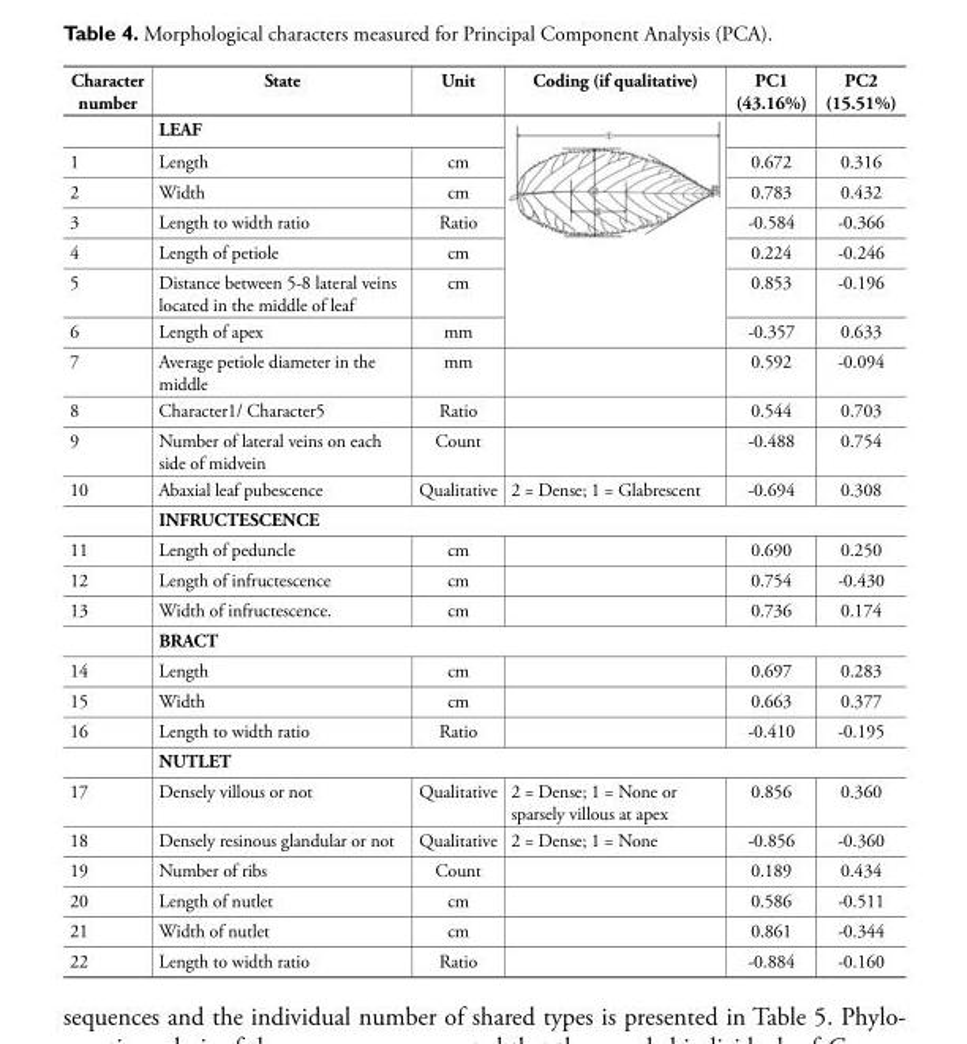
<table><tbody><tr><td rowspan="2">Character number</td><td>State</td><td>Unit</td><td>Coding (if qualitative)</td><td>PC1 (43.16%)</td><td>PC2 (15.51%)</td></tr><tr><td colspan="2">LEAF</td><td rowspan="7"></td><td></td><td></td></tr><tr><td>1</td><td>Length</td><td>cm</td><td>0.672</td><td>0.316</td></tr><tr><td>2</td><td>Width</td><td>cm</td><td>0.783</td><td>0.432</td></tr><tr><td>3</td><td>Length to width ratio</td><td>Ratio</td><td>-0.584</td><td>-0.366</td></tr><tr><td>4</td><td>Length of petiole</td><td>cm</td><td>0.224</td><td>-0.246</td></tr><tr><td>5</td><td>Distance between 5-8 lateral veins located in the middle of leaf</td><td>cm</td><td>0.853</td><td>-0.196</td></tr><tr><td>6</td><td>Length of apex</td><td>mm</td><td>-0.357</td><td>0.633</td></tr><tr><td>7</td><td>Average petiole diameter in the middle</td><td>mm</td><td></td><td>0.592</td><td>-0.094</td></tr><tr><td>8</td><td>Character1/ Character5</td><td>Ratio</td><td></td><td>0.544</td><td>0.703</td></tr><tr><td>9</td><td>Number of lateral veins on each side of midvein</td><td>Count</td><td></td><td>-0.488</td><td>0.754</td></tr><tr><td rowspan="2">10</td><td>Abaxial leaf pubescence</td><td>Qualitative</td><td>2 = Dense; 1 = Glabrescent</td><td>-0.694</td><td>0.308</td></tr><tr><td colspan="5">INFRUCTESCENCE</td></tr><tr><td>11</td><td>Length of peduncle</td><td>cm</td><td></td><td>0.690</td><td>0.250</td></tr><tr><td>12</td><td>Length of infructescence</td><td>cm</td><td></td><td>0.754</td><td>-0.430</td></tr><tr><td rowspan="2">13</td><td>Width of infructescence.</td><td>cm</td><td></td><td>0.736</td><td>0.174</td></tr><tr><td colspan="5">BRACT</td></tr><tr><td>14</td><td>Length</td><td>cm</td><td></td><td>0.697</td><td>0.283</td></tr><tr><td>15</td><td>Width</td><td>cm</td><td></td><td>0.663</td><td>0.377</td></tr><tr><td rowspan="2">16</td><td>Length to width ratio</td><td>Ratio</td><td></td><td>-0.410</td><td>-0.195</td></tr><tr><td colspan="5">NUTLET</td></tr><tr><td>17</td><td>Densely villous or not</td><td>Qualitative</td><td>2 = Dense; 1 = None or sparsely villous at apex</td><td>0.856</td><td>0.360</td></tr><tr><td>18</td><td>Densely resinous glandular or not</td><td>Qualitative</td><td>2 = Dense; 1 = None</td><td>-0.856</td><td>-0.360</td></tr><tr><td>19</td><td>Number of ribs</td><td>Count</td><td></td><td>0.189</td><td>0.434</td></tr><tr><td>20</td><td>Length of nutlet</td><td>cm</td><td></td><td>0.586</td><td>-0.511</td></tr><tr><td>21</td><td>Width of nutlet</td><td>cm</td><td></td><td>0.861</td><td>-0.344</td></tr><tr><td>22</td><td>Length to width ratio</td><td>Ratio</td><td></td><td>-0.884</td><td>-0.160</td></tr></tbody></table>